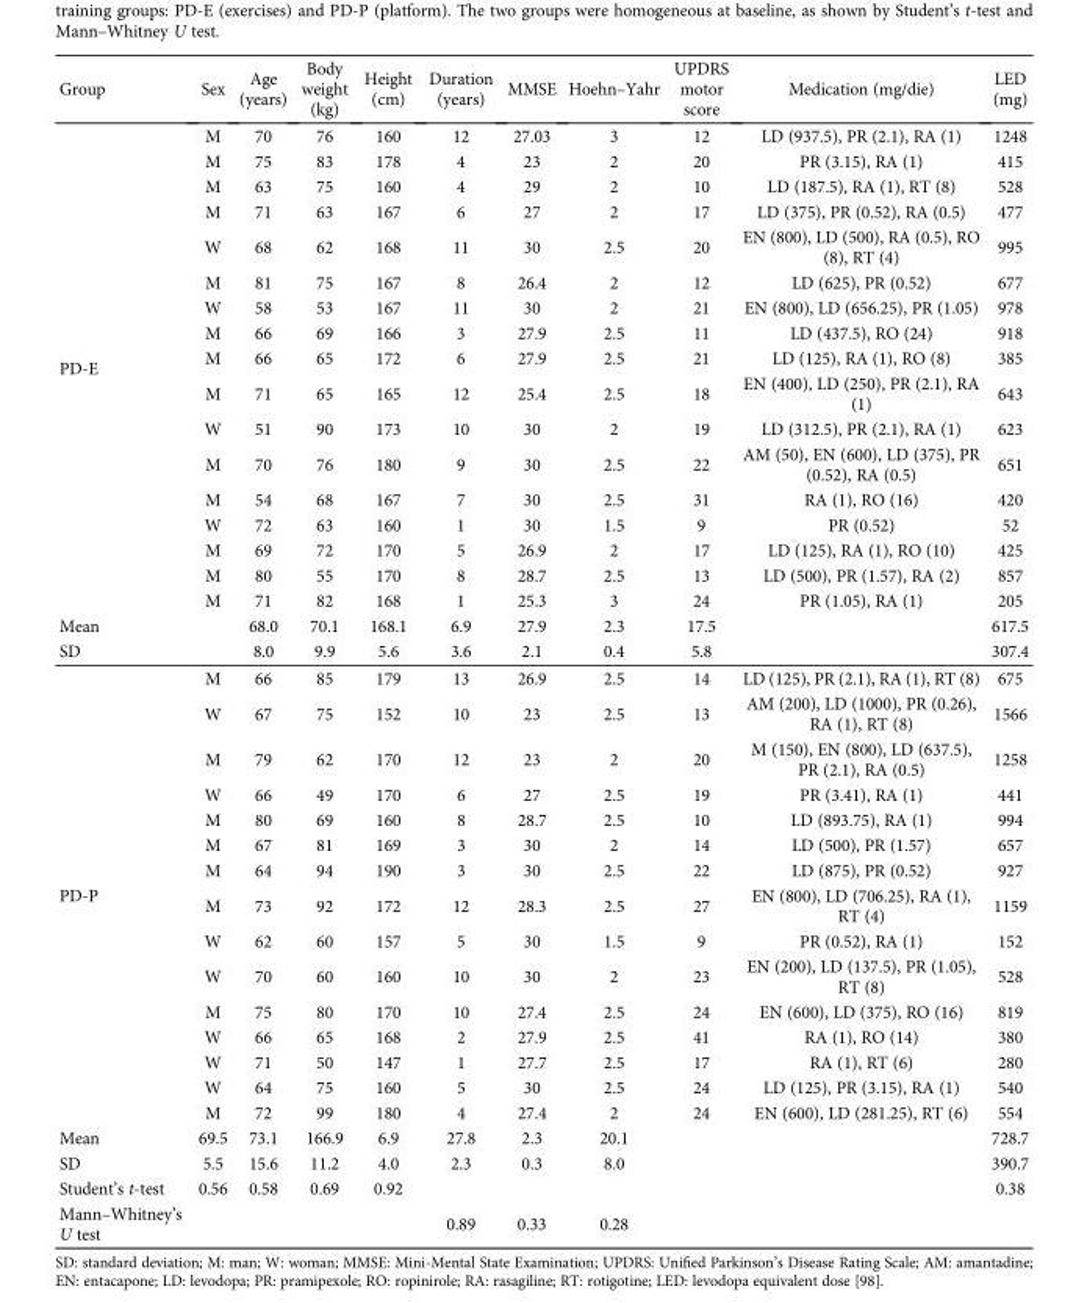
<table><thead><tr><td>Group</td><td>Sex</td><td>Age (years)</td><td>Body weight (kg)</td><td>Height (cm)</td><td>Duration (years)</td><td>MMSE</td><td>Hoehn–Yahr</td><td>UPDRS motor score</td><td>Medication (mg/die)</td><td>LED (mg)</td></tr></thead><tbody><tr><td rowspan="17">PD-E</td><td>M</td><td>70</td><td>76</td><td>160</td><td>12</td><td>27.03</td><td>3</td><td>12</td><td>LD (937.5), PR (2.1), RA (1)</td><td>1248</td></tr><tr><td>M</td><td>75</td><td>83</td><td>178</td><td>4</td><td>23</td><td>2</td><td>20</td><td>PR (3.15), RA (1)</td><td>415</td></tr><tr><td>M</td><td>63</td><td>75</td><td>160</td><td>4</td><td>29</td><td>2</td><td>10</td><td>LD (187.5), RA (1), RT (8)</td><td>528</td></tr><tr><td>M</td><td>71</td><td>63</td><td>167</td><td>6</td><td>27</td><td>2</td><td>17</td><td>LD (375), PR (0.52), RA (0.5)</td><td>477</td></tr><tr><td>W</td><td>68</td><td>62</td><td>168</td><td>11</td><td>30</td><td>2.5</td><td>20</td><td>EN (800), LD (500), RA (0.5), RO (8), RT (4)</td><td>995</td></tr><tr><td>M</td><td>81</td><td>75</td><td>167</td><td>8</td><td>26.4</td><td>2</td><td>12</td><td>LD (625), PR (0.52)</td><td>677</td></tr><tr><td>W</td><td>58</td><td>53</td><td>167</td><td>11</td><td>30</td><td>2</td><td>21</td><td>EN (800), LD (656.25), PR (1.05)</td><td>978</td></tr><tr><td>M</td><td>66</td><td>69</td><td>166</td><td>3</td><td>27.9</td><td>2.5</td><td>11</td><td>LD (437.5), RO (24)</td><td>918</td></tr><tr><td>M</td><td>66</td><td>65</td><td>172</td><td>6</td><td>27.9</td><td>2.5</td><td>21</td><td>LD (125), RA (1), RO (8)</td><td>385</td></tr><tr><td>M</td><td>71</td><td>65</td><td>165</td><td>12</td><td>25.4</td><td>2.5</td><td>18</td><td>EN (400), LD (250), PR (2.1), RA (1)</td><td>643</td></tr><tr><td>W</td><td>51</td><td>90</td><td>173</td><td>10</td><td>30</td><td>2</td><td>19</td><td>LD (312.5), PR (2.1), RA (1)</td><td>623</td></tr><tr><td>M</td><td>70</td><td>76</td><td>180</td><td>9</td><td>30</td><td>2.5</td><td>22</td><td>AM (50), EN (600), LD (375), PR (0.52), RA (0.5)</td><td>651</td></tr><tr><td>M</td><td>54</td><td>68</td><td>167</td><td>7</td><td>30</td><td>2.5</td><td>31</td><td>RA (1), RO (16)</td><td>420</td></tr><tr><td>W</td><td>72</td><td>63</td><td>160</td><td>1</td><td>30</td><td>1.5</td><td>9</td><td>PR (0.52)</td><td>52</td></tr><tr><td>M</td><td>69</td><td>72</td><td>170</td><td>5</td><td>26.9</td><td>2</td><td>17</td><td>LD (125), RA (1), RO (10)</td><td>425</td></tr><tr><td>M</td><td>80</td><td>55</td><td>170</td><td>8</td><td>28.7</td><td>2.5</td><td>13</td><td>LD (500), PR (1.57), RA (2)</td><td>857</td></tr><tr><td>M</td><td>71</td><td>82</td><td>168</td><td>1</td><td>25.3</td><td>3</td><td>24</td><td>PR (1.05), RA (1)</td><td>205</td></tr><tr><td>Mean</td><td></td><td>68.0</td><td>70.1</td><td>168.1</td><td>6.9</td><td>27.9</td><td>2.3</td><td>17.5</td><td></td><td>617.5</td></tr><tr><td>SD</td><td></td><td>8.0</td><td>9.9</td><td>5.6</td><td>3.6</td><td>2.1</td><td>0.4</td><td>5.8</td><td></td><td>307.4</td></tr><tr><td rowspan="15">PD-P</td><td>M</td><td>66</td><td>85</td><td>179</td><td>13</td><td>26.9</td><td>2.5</td><td>14</td><td>LD (125), PR (2.1), RA (1), RT (8)</td><td>675</td></tr><tr><td>W</td><td>67</td><td>75</td><td>152</td><td>10</td><td>23</td><td>2.5</td><td>13</td><td>AM (200), LD (1000), PR (0.26), RA (1), RT (8)</td><td>1566</td></tr><tr><td>M</td><td>79</td><td>62</td><td>170</td><td>12</td><td>23</td><td>2</td><td>20</td><td>M (150), EN (800), LD (637.5), PR (2.1), RA (0.5)</td><td>1258</td></tr><tr><td>W</td><td>66</td><td>49</td><td>170</td><td>6</td><td>27</td><td>2.5</td><td>19</td><td>PR (3.41), RA (1)</td><td>441</td></tr><tr><td>M</td><td>80</td><td>69</td><td>160</td><td>8</td><td>28.7</td><td>2.5</td><td>10</td><td>LD (893.75), RA (1)</td><td>994</td></tr><tr><td>M</td><td>67</td><td>81</td><td>169</td><td>3</td><td>30</td><td>2</td><td>14</td><td>LD (500), PR (1.57)</td><td>657</td></tr><tr><td>M</td><td>64</td><td>94</td><td>190</td><td>3</td><td>30</td><td>2.5</td><td>22</td><td>LD (875), PR (0.52)</td><td>927</td></tr><tr><td>M</td><td>73</td><td>92</td><td>172</td><td>12</td><td>28.3</td><td>2.5</td><td>27</td><td>EN (800), LD (706.25), RA (1), RT (4)</td><td>1159</td></tr><tr><td>W</td><td>62</td><td>60</td><td>157</td><td>5</td><td>30</td><td>1.5</td><td>9</td><td>PR (0.52), RA (1)</td><td>152</td></tr><tr><td>W</td><td>70</td><td>60</td><td>160</td><td>10</td><td>30</td><td>2</td><td>23</td><td>EN (200), LD (137.5), PR (1.05), RT (8)</td><td>528</td></tr><tr><td>M</td><td>75</td><td>80</td><td>170</td><td>10</td><td>27.4</td><td>2.5</td><td>24</td><td>EN (600), LD (375), RO (16)</td><td>819</td></tr><tr><td>W</td><td>66</td><td>65</td><td>168</td><td>2</td><td>27.9</td><td>2.5</td><td>41</td><td>RA (1), RO (14)</td><td>380</td></tr><tr><td>W</td><td>71</td><td>50</td><td>147</td><td>1</td><td>27.7</td><td>2.5</td><td>17</td><td>RA (1), RT (6)</td><td>280</td></tr><tr><td>W</td><td>64</td><td>75</td><td>160</td><td>5</td><td>30</td><td>2.5</td><td>24</td><td>LD (125), PR (3.15), RA (1)</td><td>540</td></tr><tr><td>M</td><td>72</td><td>99</td><td>180</td><td>4</td><td>27.4</td><td>2</td><td>24</td><td>EN (600), LD (281.25), RT (6)</td><td>554</td></tr><tr><td>Mean</td><td>69.5</td><td>73.1</td><td>166.9</td><td>6.9</td><td>27.8</td><td>2.3</td><td>20.1</td><td></td><td></td><td>728.7</td></tr><tr><td>SD</td><td>5.5</td><td>15.6</td><td>11.2</td><td>4.0</td><td>2.3</td><td>0.3</td><td>8.0</td><td></td><td></td><td>390.7</td></tr><tr><td>Student’s t-test</td><td>0.56</td><td>0.58</td><td>0.69</td><td>0.92</td><td></td><td></td><td></td><td></td><td></td><td>0.38</td></tr><tr><td>Mann–Whitney’s U test</td><td></td><td></td><td></td><td></td><td>0.89</td><td>0.33</td><td>0.28</td><td></td><td></td><td></td></tr></tbody></table>